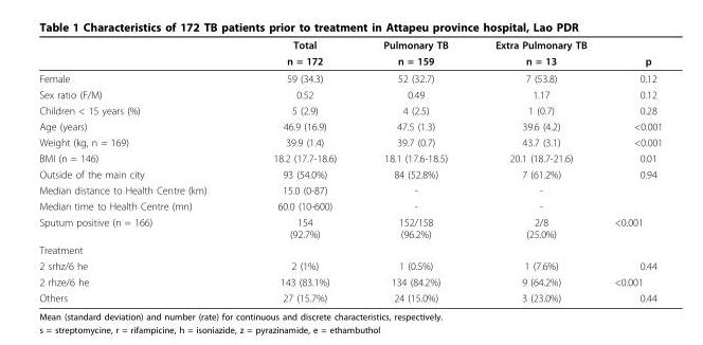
<table><thead><tr><td rowspan="2"></td><td rowspan="2">Total n = 172</td><td rowspan="2">Pulmonary TB n = 159</td><td rowspan="2">Extra Pulmonary TB n = 13</td><td rowspan="2">p</td></tr><tr></tr></thead><tbody><tr><td>Female</td><td>59 (34.3)</td><td>52 (32.7)</td><td>7 (53.8)</td><td>0.12</td></tr><tr><td>Sex ratio (F/M)</td><td>0.52</td><td>0.49</td><td>1.17</td><td>0.12</td></tr><tr><td>Children &lt; 15 years (%)</td><td>5 (2.9)</td><td>4 (2.5)</td><td>1 (0.7)</td><td>0.28</td></tr><tr><td>Age (years)</td><td>46.9 (16.9)</td><td>47.5 (1.3)</td><td>39.6 (4.2)</td><td>&lt;0.001</td></tr><tr><td>Weight (kg, n = 169)</td><td>39.9 (1.4)</td><td>39.7 (0.7)</td><td>43.7 (3.1)</td><td>&lt;0.001</td></tr><tr><td>BMI (n = 146)</td><td>18.2 (17.7-18.6)</td><td>18.1 (17.6-18.5)</td><td>20.1 (18.7-21.6)</td><td>0.01</td></tr><tr><td>Outside of the main city</td><td>93 (54.0%)</td><td>84 (52.8%)</td><td>7 (61.2%)</td><td>0.94</td></tr><tr><td>Median distance to Health Centre (km)</td><td>15.0 (0-87)</td><td>-</td><td>-</td><td></td></tr><tr><td>Median time to Health Centre (mn)</td><td>60.0 (10-600)</td><td>-</td><td>-</td><td></td></tr><tr><td>Sputum positive (n = 166)</td><td>154 (92.7%)</td><td>152/158 (96.2%)</td><td>2/8 (25.0%)</td><td>&lt;0.001</td></tr><tr><td colspan="5">Treatment</td></tr><tr><td>2 srhz/6 he</td><td>2 (1%)</td><td>1 (0.5%)</td><td>1 (7.6%)</td><td>0.44</td></tr><tr><td>2 rhze/6 he</td><td>143 (83.1%)</td><td>134 (84.2%)</td><td>9 (64.2%)</td><td>&lt;0.001</td></tr><tr><td>Others</td><td>27 (15.7%)</td><td>24 (15.0%)</td><td>3 (23.0%)</td><td>0.44</td></tr></tbody></table>